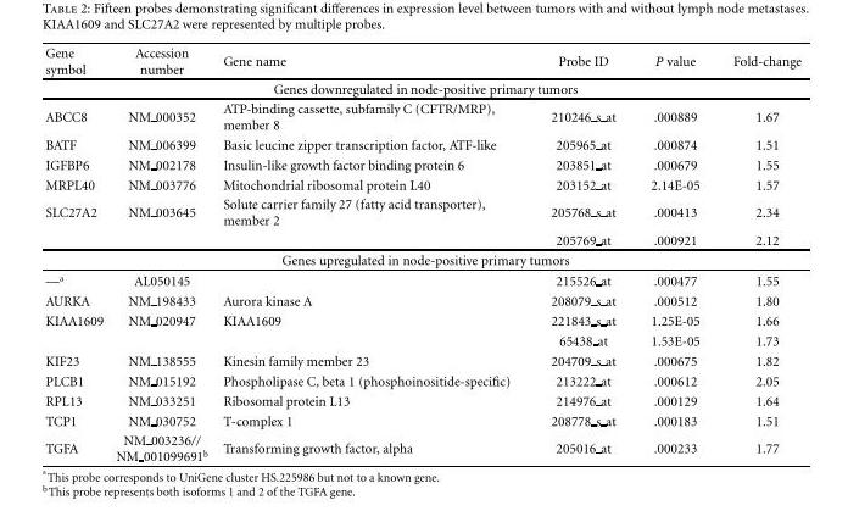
<table><thead><tr><td>Gene symbol</td><td>Accession number</td><td>Gene name</td><td>Probe ID</td><td>P value</td><td>Fold-change</td></tr></thead><tbody><tr><td colspan="6">Genes downregulated in node-positive primary tumors</td></tr><tr><td>ABCC8</td><td>NM 000352</td><td>ATP-binding cassette, subfamily C (CFTR/MRP), member 8</td><td>210246 <sub>s</sub> at</td><td>.000889</td><td>1.67</td></tr><tr><td>BATF</td><td>NM 006399</td><td>Basic leucine zipper transcription factor, ATF-like</td><td>205965 at</td><td>.000874</td><td>1.51</td></tr><tr><td>IGFBP6</td><td>NM 002178</td><td>Insulin-like growth factor binding protein 6</td><td>203851 at</td><td>.000679</td><td>1.55</td></tr><tr><td>MRPL40</td><td>NM 003776</td><td>Mitochondrial ribosomal protein L40</td><td>203152 at</td><td>2.14E-05</td><td>1.57</td></tr><tr><td rowspan="2">SLC27A2</td><td>NM 003645</td><td>Solute carrier family 27 (fatty acid transporter), member 2</td><td>205768 <sub>s</sub> at</td><td>.000413</td><td>2.34</td></tr><tr><td></td><td></td><td>205769 at</td><td>.000921</td><td>2.12</td></tr><tr><td colspan="6">Genes upregulated in node-positive primary tumors</td></tr><tr><td>—<sup>a</sup></td><td>AL050145</td><td></td><td>215526 at</td><td>.000477</td><td>1.55</td></tr><tr><td>AURKA</td><td>NM 198433</td><td>Aurora kinase A</td><td>208079 <sub>s</sub> at</td><td>.000512</td><td>1.80</td></tr><tr><td rowspan="2">KIAA1609</td><td>NM 020947</td><td>KIAA1609</td><td>221843 <sub>s</sub> at</td><td>1.25E-05</td><td>1.66</td></tr><tr><td></td><td></td><td>65438 at</td><td>1.53E-05</td><td>1.73</td></tr><tr><td>KIF23</td><td>NM 138555</td><td>Kinesin family member 23</td><td>204709 <sub>s</sub> at</td><td>.000675</td><td>1.82</td></tr><tr><td>PLCB1</td><td>NM 015192</td><td>Phospholipase C, beta 1 (phosphoinositide-specific)</td><td>213222 at</td><td>.000612</td><td>2.05</td></tr><tr><td>RPL13</td><td>NM 033251</td><td>Ribosomal protein L13</td><td>214976 at</td><td>.000129</td><td>1.64</td></tr><tr><td>TCP1</td><td>NM 030752</td><td>T-complex 1</td><td>208778 <sub>s</sub> at</td><td>.000183</td><td>1.51</td></tr><tr><td>TGFA</td><td>NM <sub>003236// NM</sub> 001099691<sup>b</sup></td><td>Transforming growth factor, alpha</td><td>205016 at</td><td>.000233</td><td>1.77</td></tr></tbody></table>